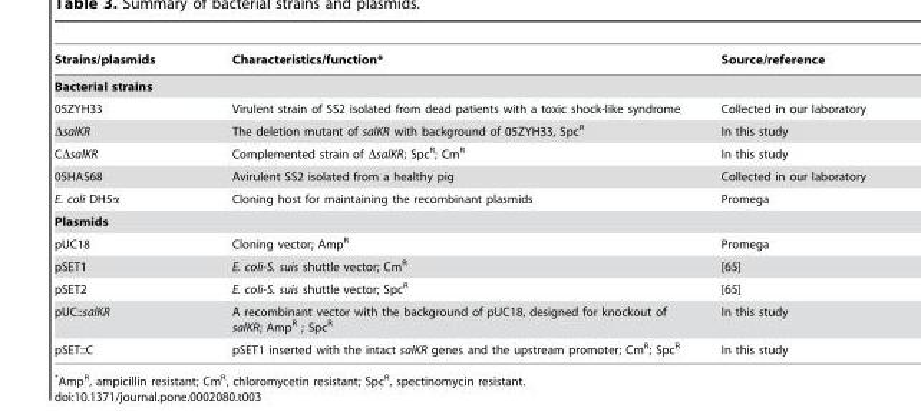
<table><thead><tr><td>Strains/plasmids</td><td>Characteristics/function*</td><td>Source/reference</td></tr></thead><tbody><tr><td colspan="3">Bacterial strains</td></tr><tr><td>05ZYH33</td><td>Virulent strain of SS2 isolated from dead patients with a toxic shock-like syndrome</td><td>Collected in our laboratory</td></tr><tr><td>ΔsalKR</td><td>The deletion mutant of salKR with background of 05ZYH33, Spc<sup>R</sup></td><td>In this study</td></tr><tr><td>CΔsalKR</td><td>Complemented strain of ΔsalKR; Spc<sup>R</sup>; Cm<sup>R</sup></td><td>In this study</td></tr><tr><td>05HAS68</td><td>Avirulent SS2 isolated from a healthy pig</td><td>Collected in our laboratory</td></tr><tr><td>E. coli DH5α</td><td>Cloning host for maintaining the recombinant plasmids</td><td>Promega</td></tr><tr><td colspan="3">Plasmids</td></tr><tr><td>pUC18</td><td>Cloning vector; Amp<sup>R</sup></td><td>Promega</td></tr><tr><td>pSET1</td><td>E. coli-S. suis shuttle vector; Cm<sup>R</sup></td><td>[65]</td></tr><tr><td>pSET2</td><td>E. coli-S. suis shuttle vector; Spc<sup>R</sup></td><td>[65]</td></tr><tr><td>pUC::salKR</td><td>A recombinant vector with the background of pUC18, designed for knockout of salKR; Amp<sup>R</sup> ; Spc<sup>R</sup></td><td>In this study</td></tr><tr><td>pSET::C</td><td>pSET1 inserted with the intact salKR genes and the upstream promoter; Cm<sup>R</sup>; Spc<sup>R</sup></td><td>In this study</td></tr></tbody></table>